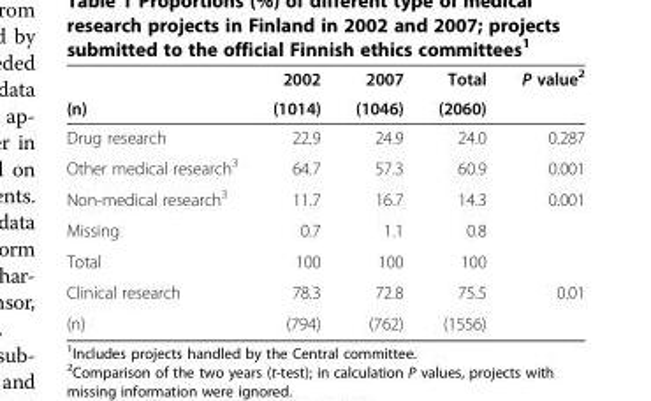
<table><thead><tr><td rowspan="2">(n)</td><td rowspan="2">2002 (1014)</td><td rowspan="2">2007 (1046)</td><td rowspan="2">Total (2060)</td><td rowspan="2">P value<sup>2</sup></td></tr><tr></tr></thead><tbody><tr><td>Drug research</td><td>22.9</td><td>24.9</td><td>24.0</td><td>0.287</td></tr><tr><td>Other medical research<sup>3</sup></td><td>64.7</td><td>57.3</td><td>60.9</td><td>0.001</td></tr><tr><td>Non-medical research<sup>3</sup></td><td>11.7</td><td>16.7</td><td>14.3</td><td rowspan="3">0.001</td></tr><tr><td>Missing</td><td>0.7</td><td>1.1</td><td>0.8</td></tr><tr><td>Total</td><td>100</td><td>100</td><td>100</td></tr><tr><td>Clinical research</td><td>78.3</td><td>72.8</td><td>75.5</td><td rowspan="2">0.01</td></tr><tr><td>(n)</td><td>(794)</td><td>(762)</td><td>(1556)</td></tr></tbody></table>